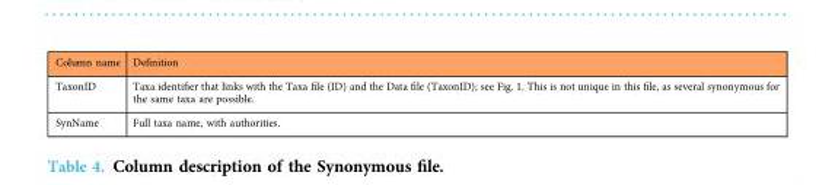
<table><thead><tr><td>Column name</td><td>Definition</td></tr></thead><tbody><tr><td>TaxonID</td><td>Taxa identifier that links with the Taxa file (ID) and the Data file (TaxonID); see Fig. 1. This is not unique in this file, as several synonymous for the same taxa are possible.</td></tr><tr><td>SynName</td><td>Full taxa name, with authorities.</td></tr></tbody></table>